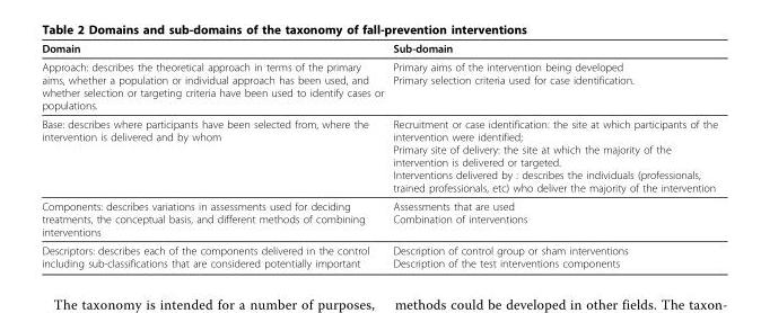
<table><thead><tr><td>Domain</td><td>Sub-domain</td></tr></thead><tbody><tr><td>Approach: describes the theoretical approach in terms of the primary aims, whether a population or individual approach has been used, and whether selection or targeting criteria have been used to identify cases or populations.</td><td>Primary aims of the intervention being developed Primary selection criteria used for case identification.</td></tr><tr><td>Base: describes where participants have been selected from, where the intervention is delivered and by whom</td><td>Recruitment or case identification: the site at which participants of the intervention were identified; Primary site of delivery: the site at which the majority of the intervention is delivered or targeted. Interventions delivered by : describes the individuals (professionals, trained professionals, etc) who deliver the majority of the intervention</td></tr><tr><td>Components: describes variations in assessments used for deciding treatments, the conceptual basis, and different methods of combining interventions</td><td>Assessments that are used Combination of interventions</td></tr><tr><td>Descriptors: describes each of the components delivered in the control including sub-classifications that are considered potentially important</td><td>Description of control group or sham interventions Description of the test interventions components</td></tr></tbody></table>